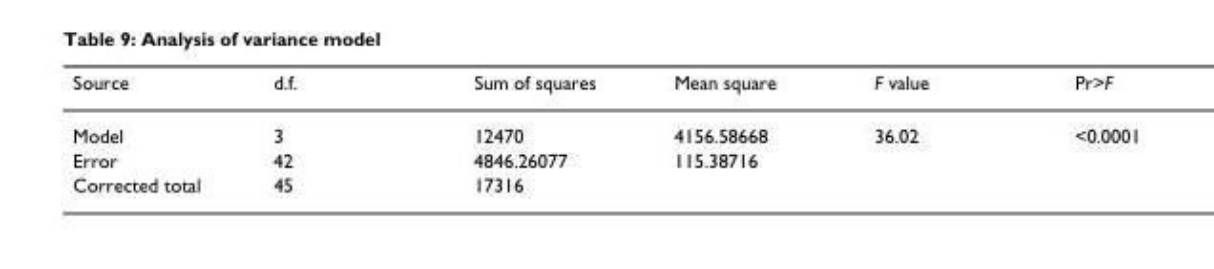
<table><thead><tr><td>Source</td><td>d.f.</td><td>Sum of squares</td><td>Mean square</td><td>F value</td><td>Pr&gt;F</td></tr></thead><tbody><tr><td>Model</td><td>3</td><td>12470</td><td>4156.58668</td><td>36.02</td><td>&lt;0.0001</td></tr><tr><td>Error</td><td>42</td><td>4846.26077</td><td>115.38716</td><td></td><td></td></tr><tr><td>Corrected total</td><td>45</td><td>17316</td><td></td><td></td><td></td></tr></tbody></table>